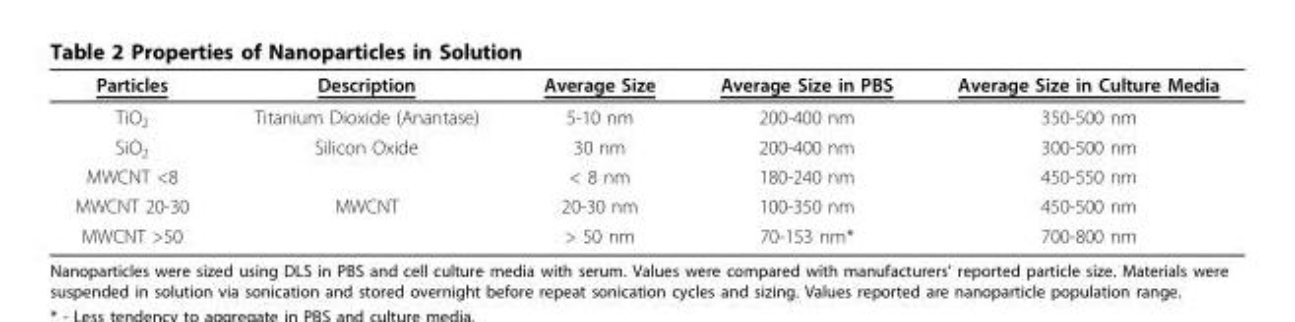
<table><thead><tr><td>Particles</td><td>Description</td><td>Average Size</td><td>Average Size in PBS</td><td>Average Size in Culture Media</td></tr></thead><tbody><tr><td>TiO<sub>2</sub></td><td>Titanium Dioxide (Anantase)</td><td>5-10 nm</td><td>200-400 nm</td><td>350-500 nm</td></tr><tr><td>SiO<sub>2</sub></td><td>Silicon Oxide</td><td>30 nm</td><td>200-400 nm</td><td>300-500 nm</td></tr><tr><td>MWCNT &lt;8</td><td></td><td>&lt; 8 nm</td><td>180-240 nm</td><td>450-550 nm</td></tr><tr><td>MWCNT 20-30</td><td>MWCNT</td><td>20-30 nm</td><td>100-350 nm</td><td>450-500 nm</td></tr><tr><td>MWCNT &gt;50</td><td></td><td>&gt; 50 nm</td><td>70-153 nm*</td><td>700-800 nm</td></tr></tbody></table>